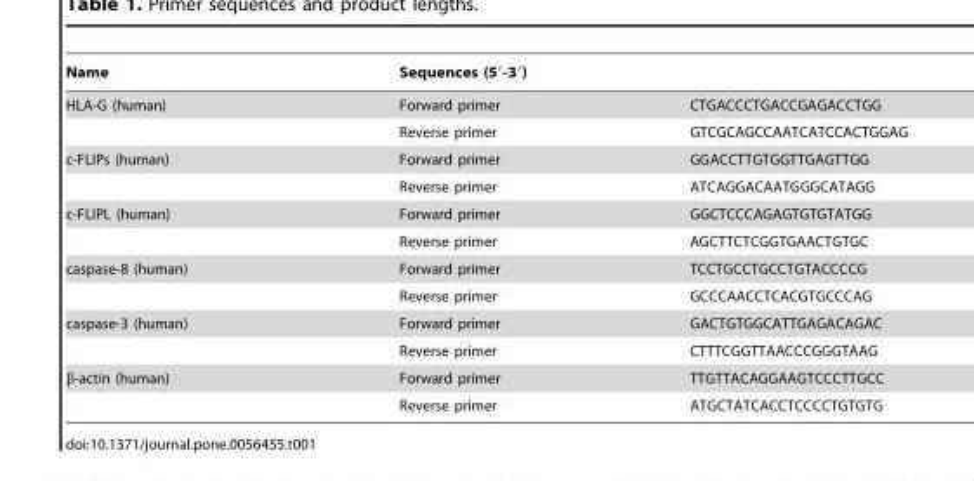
<table><thead><tr><td rowspan="2">Name HLA-G (human)</td><td colspan="2">Sequences (5′-3′)</td></tr><tr><td>Forward primer</td><td>CTGACCCTGACCGAGACCTGG</td></tr></thead><tbody><tr><td></td><td>Reverse primer</td><td>GTCGCAGCCAATCATCCACTGGAG</td></tr><tr><td rowspan="2">c-FLIPs (human)</td><td>Forward primer</td><td>GGACCTTGTGGTTGAGTTGG</td></tr><tr><td>Reverse primer</td><td>ATCAGGACAATGGGCATAGG</td></tr><tr><td rowspan="2">c-FLIPL (human)</td><td>Forward primer</td><td>GGCTCCCAGAGTGTGTATGG</td></tr><tr><td>Reverse primer</td><td>AGCTTCTCGGTGAACTGTGC</td></tr><tr><td rowspan="2">caspase-8 (human)</td><td>Forward primer</td><td>TCCTGCCTGCCTGTACCCCG</td></tr><tr><td>Reverse primer</td><td>GCCCAACCTCACGTGCCCAG</td></tr><tr><td rowspan="2">caspase-3 (human)</td><td>Forward primer</td><td>GACTGTGGCATTGAGACAGAC</td></tr><tr><td>Reverse primer</td><td>CTTTCGGTTAACCCGGGTAAG</td></tr><tr><td rowspan="2">β-actin (human)</td><td>Forward primer</td><td>TTGTTACAGGAAGTCCCTTGCC</td></tr><tr><td>Reverse primer</td><td>ATGCTATCACCTCCCCTGTGTG</td></tr></tbody></table>